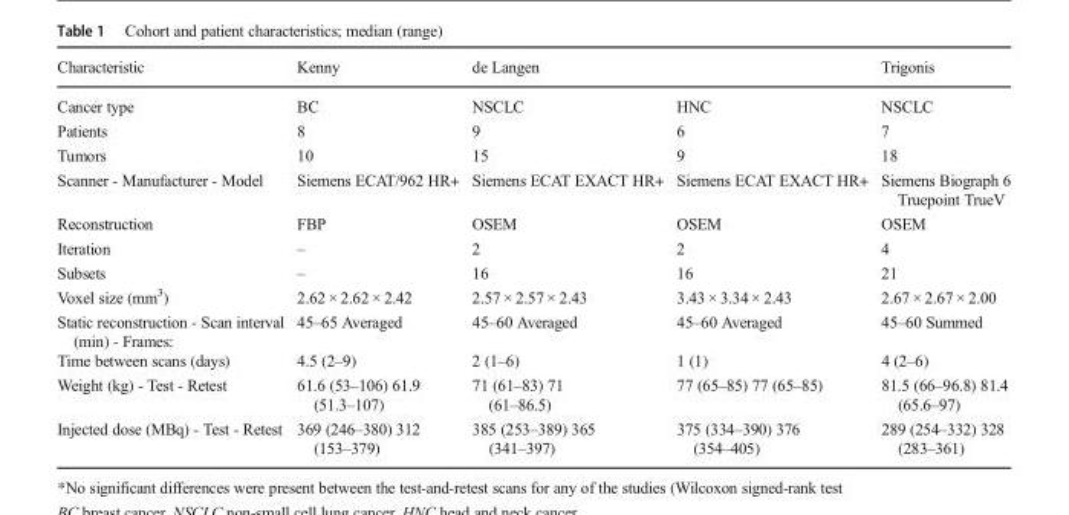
<table><thead><tr><td rowspan="2">Characteristic Cancer type</td><td rowspan="2">Kenny BC</td><td colspan="2">de Langen</td><td rowspan="2">Trigonis NSCLC</td></tr><tr><td>NSCLC</td><td>HNC</td></tr></thead><tbody><tr><td>Patients</td><td>8</td><td>9</td><td>6</td><td>7</td></tr><tr><td>Tumors</td><td>10</td><td>15</td><td>9</td><td>18</td></tr><tr><td>Scanner - Manufacturer - Model</td><td>Siemens ECAT/962 HR+</td><td>Siemens ECAT EXACT HR+</td><td>Siemens ECAT EXACT HR+</td><td>Siemens Biograph 6 Truepoint TrueV</td></tr><tr><td>Reconstruction</td><td>FBP</td><td>OSEM</td><td>OSEM</td><td>OSEM</td></tr><tr><td>Iteration</td><td>–</td><td>2</td><td>2</td><td>4</td></tr><tr><td>Subsets</td><td>–</td><td>16</td><td>16</td><td>21</td></tr><tr><td>Voxel size (mm<sup>3</sup>)</td><td>2.62 × 2.62 × 2.42</td><td>2.57 × 2.57 × 2.43</td><td>3.43 × 3.34 × 2.43</td><td>2.67 × 2.67 × 2.00</td></tr><tr><td>Static reconstruction - Scan interval (min) - Frames:</td><td>45–65 Averaged</td><td>45–60 Averaged</td><td>45–60 Averaged</td><td>45–60 Summed</td></tr><tr><td>Time between scans (days)</td><td>4.5 (2–9)</td><td>2 (1–6)</td><td>1 (1)</td><td>4 (2–6)</td></tr><tr><td>Weight (kg) - Test - Retest</td><td>61.6 (53–106) 61.9 (51.3–107)</td><td>71 (61–83) 71 (61–86.5)</td><td>77 (65–85) 77 (65–85)</td><td>81.5 (66–96.8) 81.4 (65.6–97)</td></tr><tr><td>Injected dose (MBq) - Test - Retest</td><td>369 (246–380) 312 (153–379)</td><td>385 (253–389) 365 (341–397)</td><td>375 (334–390) 376 (354–405)</td><td>289 (254–332) 328 (283–361)</td></tr></tbody></table>